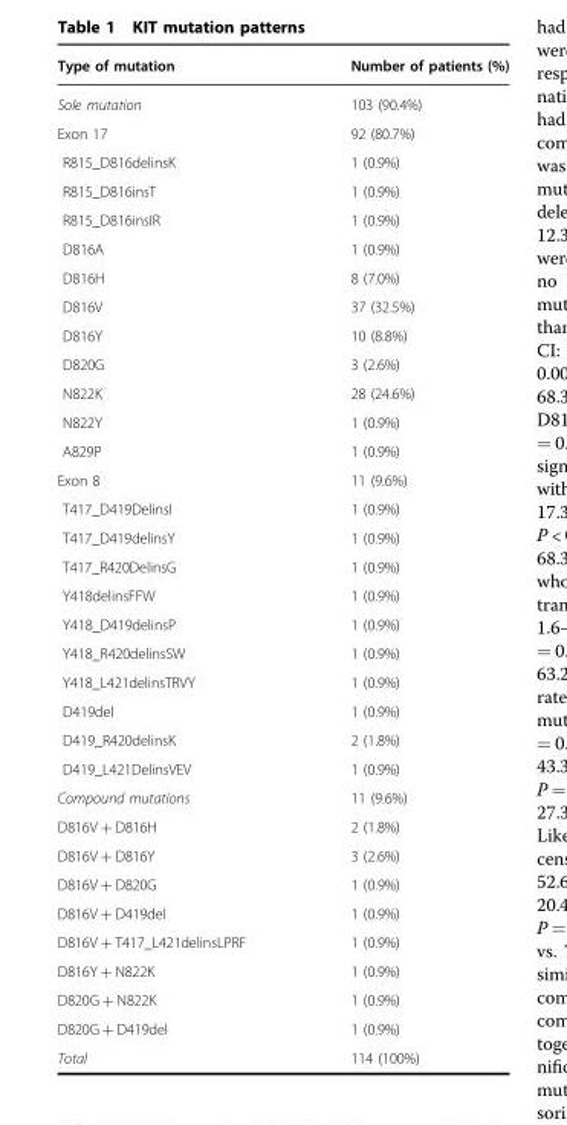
<table><thead><tr><td>Type of mutation</td><td>Number of patients (%)</td></tr></thead><tbody><tr><td>Sole mutation</td><td>103 (90.4%)</td></tr><tr><td>Exon 17</td><td>92 (80.7%)</td></tr><tr><td>R815_D816delinsK</td><td>1 (0.9%)</td></tr><tr><td>R815_D816insT</td><td>1 (0.9%)</td></tr><tr><td>R815_D816insIR</td><td>1 (0.9%)</td></tr><tr><td>D816A</td><td>1 (0.9%)</td></tr><tr><td>D816H</td><td>8 (7.0%)</td></tr><tr><td>D816V</td><td>37 (32.5%)</td></tr><tr><td>D816Y</td><td>10 (8.8%)</td></tr><tr><td>D820G</td><td>3 (2.6%)</td></tr><tr><td>N822K</td><td>28 (24.6%)</td></tr><tr><td>N822Y</td><td>1 (0.9%)</td></tr><tr><td>A829P</td><td>1 (0.9%)</td></tr><tr><td>Exon 8</td><td>11 (9.6%)</td></tr><tr><td>T417_D419DelinsI</td><td>1 (0.9%)</td></tr><tr><td>T417_D419delinsY</td><td>1 (0.9%)</td></tr><tr><td>T417_R420DelinsG</td><td>1 (0.9%)</td></tr><tr><td>Y418delinsFFW</td><td>1 (0.9%)</td></tr><tr><td>Y418_D419delinsP</td><td>1 (0.9%)</td></tr><tr><td>Y418_R420delinsSW</td><td>1 (0.9%)</td></tr><tr><td>Y418_L421delinsTRVY</td><td>1 (0.9%)</td></tr><tr><td>D419del</td><td>1 (0.9%)</td></tr><tr><td>D419_R420delinsK</td><td>2 (1.8%)</td></tr><tr><td>D419_L421DelinsVEV</td><td>1 (0.9%)</td></tr><tr><td>Compound mutations</td><td>11 (9.6%)</td></tr><tr><td>D816V + D816H</td><td>2 (1.8%)</td></tr><tr><td>D816V + D816Y</td><td>3 (2.6%)</td></tr><tr><td>D816V + D820G</td><td>1 (0.9%)</td></tr><tr><td>D816V + D419del</td><td>1 (0.9%)</td></tr><tr><td>D816V + T417_L421delinsLPRF</td><td>1 (0.9%)</td></tr><tr><td>D816Y + N822K</td><td>1 (0.9%)</td></tr><tr><td>D820G + N822K</td><td>1 (0.9%)</td></tr><tr><td>D820G + D419del</td><td>1 (0.9%)</td></tr><tr><td>Total</td><td>114 (100%)</td></tr></tbody></table>